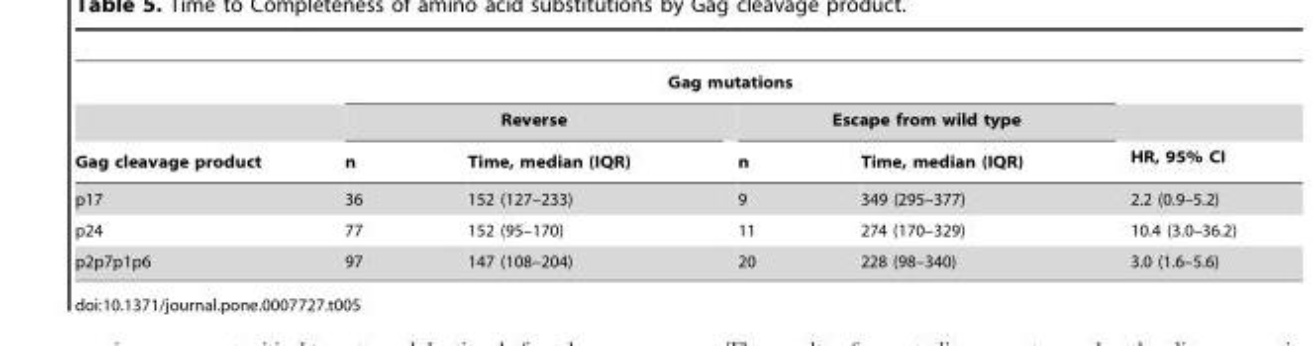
<table><thead><tr><td rowspan="3">Gag cleavage product</td><td colspan="4">Gag mutations</td><td rowspan="3">HR, 95% CI</td></tr><tr><td colspan="2">Reverse</td><td colspan="2">Escape from wild type</td></tr><tr><td>n</td><td>Time, median (IQR)</td><td>n</td><td>Time, median (IQR)</td></tr></thead><tbody><tr><td>p17</td><td>36</td><td>152 (127–233)</td><td>9</td><td>349 (295–377)</td><td>2.2 (0.9–5.2)</td></tr><tr><td>p24</td><td>77</td><td>152 (95–170)</td><td>11</td><td>274 (170–329)</td><td>10.4 (3.0–36.2)</td></tr><tr><td>p2p7p1p6</td><td>97</td><td>147 (108–204)</td><td>20</td><td>228 (98–340)</td><td>3.0 (1.6–5.6)</td></tr></tbody></table>